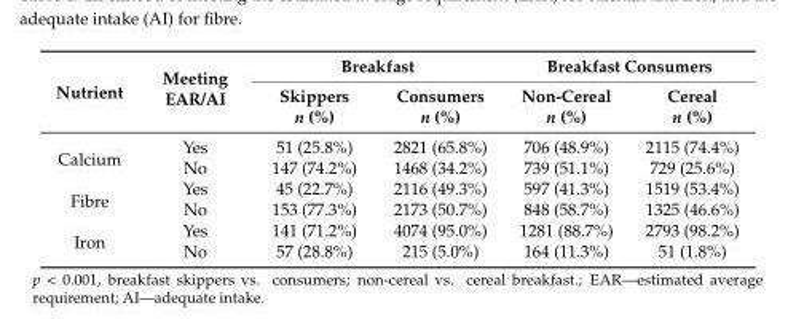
<table><thead><tr><td rowspan="2">Nutrient</td><td rowspan="2">Meeting EAR/AI</td><td colspan="2">Breakfast</td><td colspan="2">Breakfast Consumers</td></tr><tr><td>Skippers n (%)</td><td>Consumers n (%)</td><td>Non-Cereal n (%)</td><td>Cereal n (%)</td></tr></thead><tbody><tr><td rowspan="2">Calcium</td><td>Yes</td><td>51 (25.8%)</td><td>2821 (65.8%)</td><td>706 (48.9%)</td><td>2115 (74.4%)</td></tr><tr><td>No</td><td>147 (74.2%)</td><td>1468 (34.2%)</td><td>739 (51.1%)</td><td>729 (25.6%)</td></tr><tr><td rowspan="2">Fibre</td><td>Yes</td><td>45 (22.7%)</td><td>2116 (49.3%)</td><td>597 (41.3%)</td><td>1519 (53.4%)</td></tr><tr><td>No</td><td>153 (77.3%)</td><td>2173 (50.7%)</td><td>848 (58.7%)</td><td>1325 (46.6%)</td></tr><tr><td rowspan="2">Iron</td><td>Yes</td><td>141 (71.2%)</td><td>4074 (95.0%)</td><td>1281 (88.7%)</td><td>2793 (98.2%)</td></tr><tr><td>No</td><td>57 (28.8%)</td><td>215 (5.0%)</td><td>164 (11.3%)</td><td>51 (1.8%)</td></tr></tbody></table>